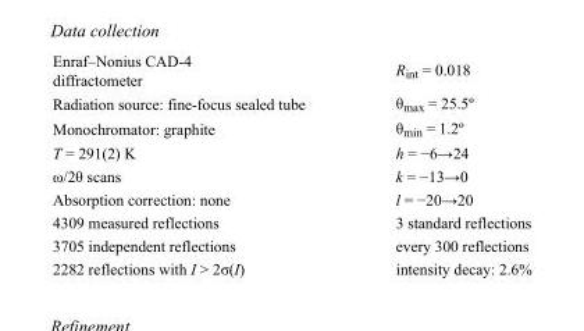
<table><tbody><tr><td>Enraf–Nonius CAD-4 diffractometer</td><td>R<sub>int</sub> = 0.018</td></tr><tr><td>Radiation source: fine-focus sealed tube</td><td>θ<sub>max</sub> = 25.5º</td></tr><tr><td>Monochromator: graphite</td><td>θ<sub>min</sub> = 1.2º</td></tr><tr><td>T = 291(2) K</td><td>h = −6→24</td></tr><tr><td>ω/2θ scans</td><td>k = −13→0</td></tr><tr><td>Absorption correction: none</td><td>l = −20→20</td></tr><tr><td>4309 measured reflections</td><td>3 standard reflections</td></tr><tr><td>3705 independent reflections</td><td>every 300 reflections</td></tr><tr><td>2282 reflections with I &gt; 2σ(I)</td><td>intensity decay: 2.6%</td></tr></tbody></table>